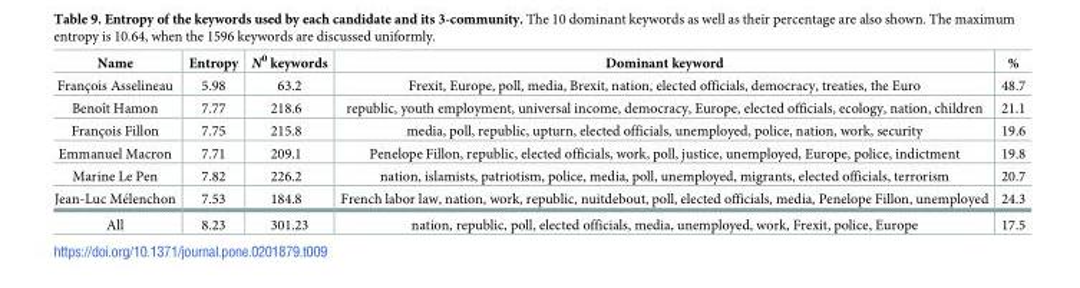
<table><thead><tr><td>Name</td><td>Entropy</td><td>N<sup>0</sup> keywords</td><td>Dominant keyword</td><td>%</td></tr></thead><tbody><tr><td>Franc¸ois Asselineau</td><td>5.98</td><td>63.2</td><td>Frexit, Europe, poll, media, Brexit, nation, elected officials, democracy, treaties, the Euro</td><td>48.7</td></tr><tr><td>Benoıˆt Hamon</td><td>7.77</td><td>218.6</td><td>republic, youth employment, universal income, democracy, Europe, elected officials, ecology, nation, children</td><td>21.1</td></tr><tr><td>Franc¸ois Fillon</td><td>7.75</td><td>215.8</td><td>media, poll, republic, upturn, elected officials, unemployed, police, nation, work, security</td><td>19.6</td></tr><tr><td>Emmanuel Macron</td><td>7.71</td><td>209.1</td><td>Penelope Fillon, republic, elected officials, work, poll, justice, unemployed, Europe, police, indictment</td><td>19.8</td></tr><tr><td>Marine Le Pen</td><td>7.82</td><td>226.2</td><td>nation, islamists, patriotism, police, media, poll, unemployed, migrants, elected officials, terrorism</td><td>20.7</td></tr><tr><td>Jean-Luc Me´lenchon</td><td>7.53</td><td>184.8</td><td>French labor law, nation, work, republic, nuitdebout, poll, elected officials, media, Penelope Fillon, unemployed</td><td>24.3</td></tr><tr><td>All</td><td>8.23</td><td>301.23</td><td>nation, republic, poll, elected officials, media, unemployed, work, Frexit, police, Europe</td><td>17.5</td></tr></tbody></table>